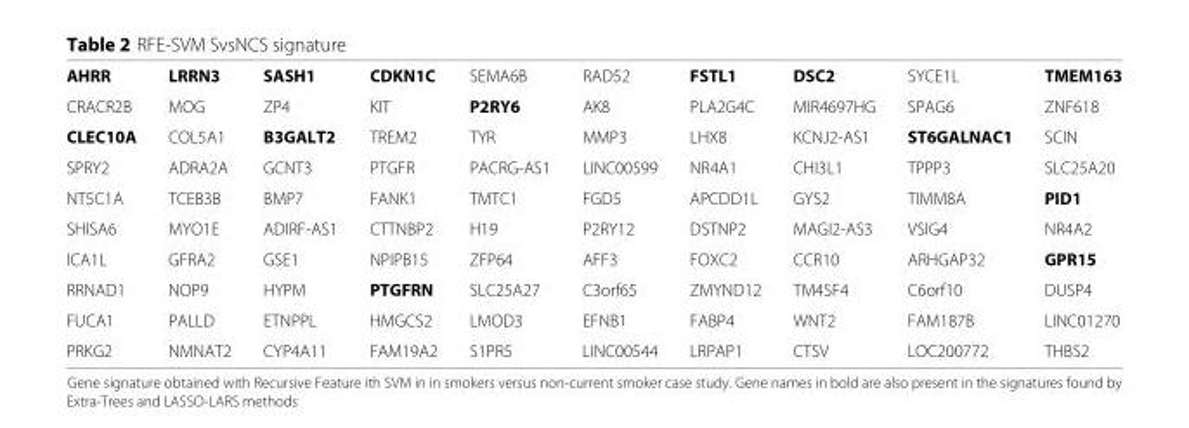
<table><tbody><tr><td>AHRR</td><td>LRRN3</td><td>SASH1</td><td>CDKN1C</td><td>SEMA6B</td><td>RAD52</td><td>FSTL1</td><td>DSC2</td><td>SYCE1L</td><td>TMEM163</td></tr><tr><td>CRACR2B</td><td>MOG</td><td>ZP4</td><td>KIT</td><td>P2RY6</td><td>AK8</td><td>PLA2G4C</td><td>MIR4697HG</td><td>SPAG6</td><td>ZNF618</td></tr><tr><td>CLEC10A</td><td>COL5A1</td><td>B3GALT2</td><td>TREM2</td><td>TYR</td><td>MMP3</td><td>LHX8</td><td>KCNJ2-AS1</td><td>ST6GALNAC1</td><td>SCIN</td></tr><tr><td>SPRY2</td><td>ADRA2A</td><td>GCNT3</td><td>PTGFR</td><td>PACRG-AS1</td><td>LINC00599</td><td>NR4A1</td><td>CHI3L1</td><td>TPPP3</td><td>SLC25A20</td></tr><tr><td>NT5C1A</td><td>TCEB3B</td><td>BMP7</td><td>FANK1</td><td>TMTC1</td><td>FGD5</td><td>APCDD1L</td><td>GYS2</td><td>TIMM8A</td><td>PID1</td></tr><tr><td>SHISA6</td><td>MYO1E</td><td>ADIRF-AS1</td><td>CTTNBP2</td><td>H19</td><td>P2RY12</td><td>DSTNP2</td><td>MAGI2-AS3</td><td>VSIG4</td><td>NR4A2</td></tr><tr><td>ICA1L</td><td>GFRA2</td><td>GSE1</td><td>NPIPB15</td><td>ZFP64</td><td>AFF3</td><td>FOXC2</td><td>CCR10</td><td>ARHGAP32</td><td>GPR15</td></tr><tr><td>RRNAD1</td><td>NOP9</td><td>HYPM</td><td>PTGFRN</td><td>SLC25A27</td><td>C3orf65</td><td>ZMYND12</td><td>TM4SF4</td><td>C6orf10</td><td>DUSP4</td></tr><tr><td>FUCA1</td><td>PALLD</td><td>ETNPPL</td><td>HMGCS2</td><td>LMOD3</td><td>EFNB1</td><td>FABP4</td><td>WNT2</td><td>FAM187B</td><td>LINC01270</td></tr><tr><td>PRKG2</td><td>NMNAT2</td><td>CYP4A11</td><td>FAM19A2</td><td>S1PR5</td><td>LINC00544</td><td>LRPAP1</td><td>CTSV</td><td>LOC200772</td><td>THBS2</td></tr></tbody></table>